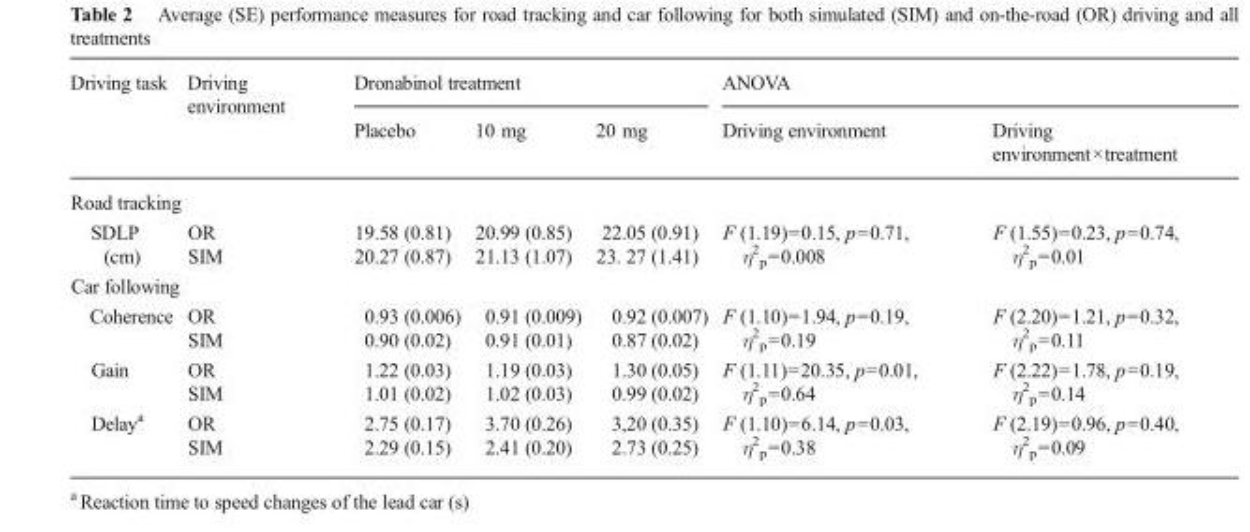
<table><thead><tr><td rowspan="2">Driving task</td><td rowspan="2">Driving environment</td><td colspan="3">Dronabinol treatment</td><td colspan="2">ANOVA</td></tr><tr><td>Placebo</td><td>10 mg</td><td>20 mg</td><td>Driving environment</td><td>Driving environment×treatment</td></tr></thead><tbody><tr><td colspan="7">Road tracking</td></tr><tr><td rowspan="2">SDLP (cm)</td><td>OR</td><td>19.58 (0.81)</td><td>20.99 (0.85)</td><td>22.05 (0.91)</td><td rowspan="2">F (1.19)=0.15, p=0.71, η<sup>2</sup> <sub>p</sub>=0.008</td><td rowspan="2">F (1.55)=0.23, p=0.74, η<sup>2</sup> <sub>p</sub>=0.01</td></tr><tr><td>SIM</td><td>20.27 (0.87)</td><td>21.13 (1.07)</td><td>23. 27 (1.41)</td></tr><tr><td colspan="7">Car following</td></tr><tr><td rowspan="2">Coherence</td><td>OR</td><td>0.93 (0.006)</td><td>0.91 (0.009)</td><td>0.92 (0.007)</td><td rowspan="2">F (1.10)=1.94, p=0.19, η<sup>2</sup> <sub>p</sub>=0.19</td><td rowspan="2">F (2.20)=1.21, p=0.32, η<sup>2</sup> <sub>p</sub>=0.11</td></tr><tr><td>SIM</td><td>0.90 (0.02)</td><td>0.91 (0.01)</td><td>0.87 (0.02)</td></tr><tr><td rowspan="2">Gain</td><td>OR</td><td>1.22 (0.03)</td><td>1.19 (0.03)</td><td>1.30 (0.05)</td><td rowspan="2">F (1.11)=20.35, p=0.01, η<sup>2</sup> <sub>p</sub>=0.64</td><td rowspan="2">F (2.22)=1.78, p=0.19, η<sup>2</sup> <sub>p</sub>=0.14</td></tr><tr><td>SIM</td><td>1.01 (0.02)</td><td>1.02 (0.03)</td><td>0.99 (0.02)</td></tr><tr><td rowspan="2">Delay<sup>a</sup></td><td>OR</td><td>2.75 (0.17)</td><td>3.70 (0.26)</td><td>3,20 (0.35)</td><td rowspan="2">F (1.10)=6.14, p=0.03, η<sup>2</sup> <sub>p</sub>=0.38</td><td rowspan="2">F (2.19)=0.96, p=0.40, η<sup>2</sup> <sub>p</sub>=0.09</td></tr><tr><td>SIM</td><td>2.29 (0.15)</td><td>2.41 (0.20)</td><td>2.73 (0.25)</td></tr></tbody></table>